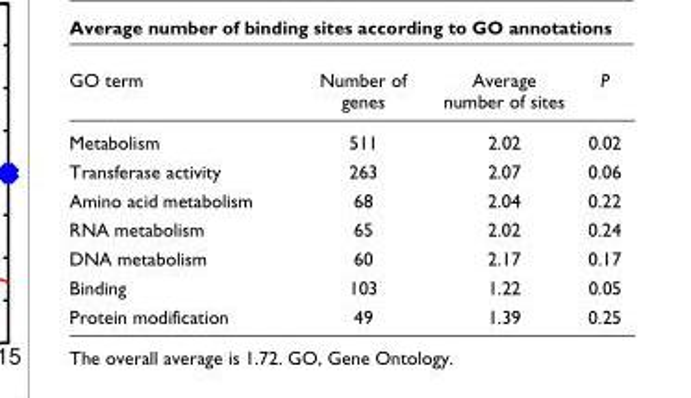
<table><thead><tr><td>GO term</td><td>Number of genes</td><td>Average number of sites</td><td>P</td></tr></thead><tbody><tr><td>Metabolism</td><td>511</td><td>2.02</td><td>0.02</td></tr><tr><td>Transferase activity</td><td>263</td><td>2.07</td><td>0.06</td></tr><tr><td>Amino acid metabolism</td><td>68</td><td>2.04</td><td>0.22</td></tr><tr><td>RNA metabolism</td><td>65</td><td>2.02</td><td>0.24</td></tr><tr><td>DNA metabolism</td><td>60</td><td>2.17</td><td>0.17</td></tr><tr><td>Binding</td><td>103</td><td>1.22</td><td>0.05</td></tr><tr><td>Protein modification</td><td>49</td><td>1.39</td><td>0.25</td></tr></tbody></table>